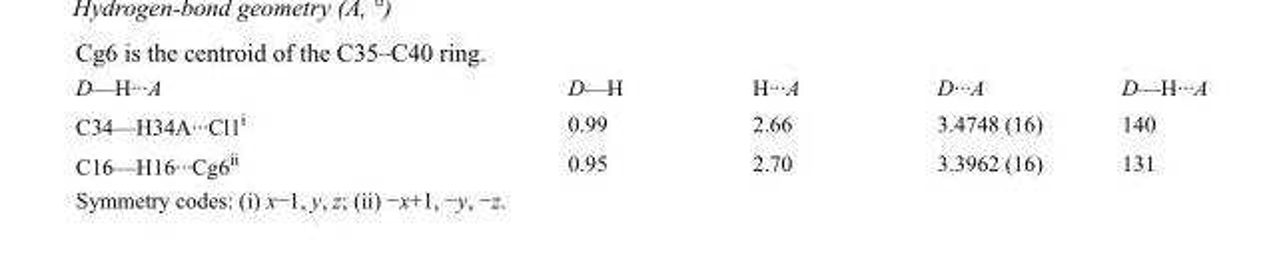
<table><tbody><tr><td>D—H···A</td><td>D—H</td><td>H···A</td><td>D···A</td><td>D—H···A</td></tr><tr><td>C34—H34A···Cl1<sup>i</sup></td><td>0.99</td><td>2.66</td><td>3.4748 (16)</td><td>140</td></tr><tr><td>C16—H16···Cg6<sup>ii</sup></td><td>0.95</td><td>2.70</td><td>3.3962 (16)</td><td>131</td></tr></tbody></table>